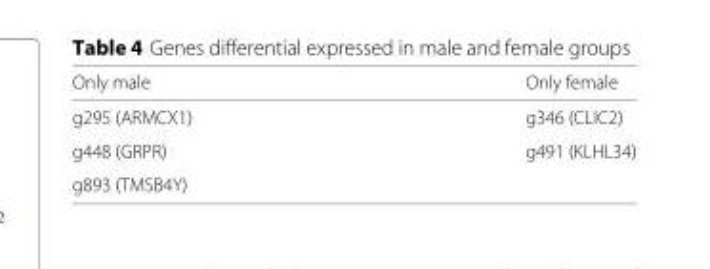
<table><thead><tr><td>Only male</td><td>Only female</td></tr></thead><tbody><tr><td>g295 (ARMCX1)</td><td>g346 (CLIC2)</td></tr><tr><td>g448 (GRPR)</td><td>g491 (KLHL34)</td></tr><tr><td>g893 (TMSB4Y)</td><td></td></tr></tbody></table>